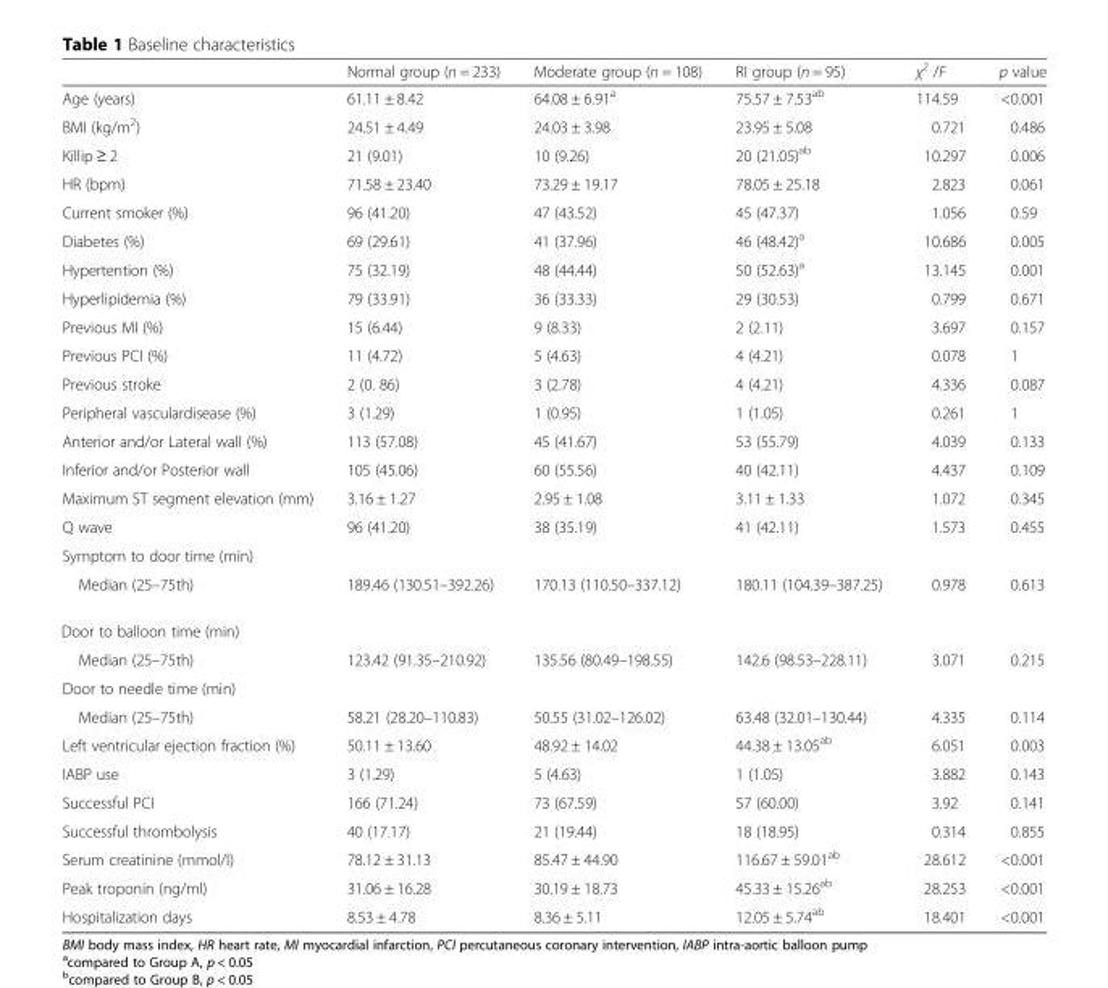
<table><thead><tr><td></td><td>Normal group (n = 233)</td><td>Moderate group (n = 108)</td><td>RI group (n = 95)</td><td>χ<sup>2</sup> /F</td><td>p value</td></tr></thead><tbody><tr><td>Age (years)</td><td>61.11 ± 8.42</td><td>64.08 ± 6.91<sup>a</sup></td><td>75.57 ± 7.53<sup>ab</sup></td><td>114.59</td><td>&lt;0.001</td></tr><tr><td>BMI (kg/m<sup>2</sup>)</td><td>24.51 ± 4.49</td><td>24.03 ± 3.98</td><td>23.95 ± 5.08</td><td>0.721</td><td>0.486</td></tr><tr><td>Killip ≥ 2</td><td>21 (9.01)</td><td>10 (9.26)</td><td>20 (21.05)<sup>ab</sup></td><td>10.297</td><td>0.006</td></tr><tr><td>HR (bpm)</td><td>71.58 ± 23.40</td><td>73.29 ± 19.17</td><td>78.05 ± 25.18</td><td>2.823</td><td>0.061</td></tr><tr><td>Current smoker (%)</td><td>96 (41.20)</td><td>47 (43.52)</td><td>45 (47.37)</td><td>1.056</td><td>0.59</td></tr><tr><td>Diabetes (%)</td><td>69 (29.61)</td><td>41 (37.96)</td><td>46 (48.42)<sup>a</sup></td><td>10.686</td><td>0.005</td></tr><tr><td>Hypertention (%)</td><td>75 (32.19)</td><td>48 (44.44)</td><td>50 (52.63)<sup>a</sup></td><td>13.145</td><td>0.001</td></tr><tr><td>Hyperlipidemia (%)</td><td>79 (33.91)</td><td>36 (33.33)</td><td>29 (30.53)</td><td>0.799</td><td>0.671</td></tr><tr><td>Previous MI (%)</td><td>15 (6.44)</td><td>9 (8.33)</td><td>2 (2.11)</td><td>3.697</td><td>0.157</td></tr><tr><td>Previous PCI (%)</td><td>11 (4.72)</td><td>5 (4.63)</td><td>4 (4.21)</td><td>0.078</td><td>1</td></tr><tr><td>Previous stroke</td><td>2 (0. 86)</td><td>3 (2.78)</td><td>4 (4.21)</td><td>4.336</td><td>0.087</td></tr><tr><td>Peripheral vasculardisease (%)</td><td>3 (1.29)</td><td>1 (0.95)</td><td>1 (1.05)</td><td>0.261</td><td>1</td></tr><tr><td>Anterior and/or Lateral wall (%)</td><td>113 (57.08)</td><td>45 (41.67)</td><td>53 (55.79)</td><td>4.039</td><td>0.133</td></tr><tr><td>Inferior and/or Posterior wall</td><td>105 (45.06)</td><td>60 (55.56)</td><td>40 (42.11)</td><td>4.437</td><td>0.109</td></tr><tr><td>Maximum ST segment elevation (mm)</td><td>3.16 ± 1.27</td><td>2.95 ± 1.08</td><td>3.11 ± 1.33</td><td>1.072</td><td>0.345</td></tr><tr><td>Q wave</td><td>96 (41.20)</td><td>38 (35.19)</td><td>41 (42.11)</td><td>1.573</td><td>0.455</td></tr><tr><td colspan="6">Symptom to door time (min)</td></tr><tr><td>Median (25–75th)</td><td>189.46 (130.51–392.26)</td><td>170.13 (110.50–337.12)</td><td>180.11 (104.39–387.25)</td><td>0.978</td><td>0.613</td></tr><tr><td colspan="6">Door to balloon time (min)</td></tr><tr><td>Median (25–75th)</td><td>123.42 (91.35–210.92)</td><td>135.56 (80.49–198.55)</td><td>142.6 (98.53–228.11)</td><td>3.071</td><td>0.215</td></tr><tr><td colspan="6">Door to needle time (min)</td></tr><tr><td>Median (25–75th)</td><td>58.21 (28.20–110.83)</td><td>50.55 (31.02–126.02)</td><td>63.48 (32.01–130.44)</td><td>4.335</td><td>0.114</td></tr><tr><td>Left ventricular ejection fraction (%)</td><td>50.11 ± 13.60</td><td>48.92 ± 14.02</td><td>44.38 ± 13.05<sup>ab</sup></td><td>6.051</td><td>0.003</td></tr><tr><td>IABP use</td><td>3 (1.29)</td><td>5 (4.63)</td><td>1 (1.05)</td><td>3.882</td><td>0.143</td></tr><tr><td>Successful PCI</td><td>166 (71.24)</td><td>73 (67.59)</td><td>57 (60.00)</td><td>3.92</td><td>0.141</td></tr><tr><td>Successful thrombolysis</td><td>40 (17.17)</td><td>21 (19.44)</td><td>18 (18.95)</td><td>0.314</td><td>0.855</td></tr><tr><td>Serum creatinine (mmol/l)</td><td>78.12 ± 31.13</td><td>85.47 ± 44.90</td><td>116.67 ± 59.01<sup>ab</sup></td><td>28.612</td><td>&lt;0.001</td></tr><tr><td>Peak troponin (ng/ml)</td><td>31.06 ± 16.28</td><td>30.19 ± 18.73</td><td>45.33 ± 15.26<sup>ab</sup></td><td>28.253</td><td>&lt;0.001</td></tr><tr><td>Hospitalization days</td><td>8.53 ± 4.78</td><td>8.36 ± 5.11</td><td>12.05 ± 5.74<sup>ab</sup></td><td>18.401</td><td>&lt;0.001</td></tr></tbody></table>